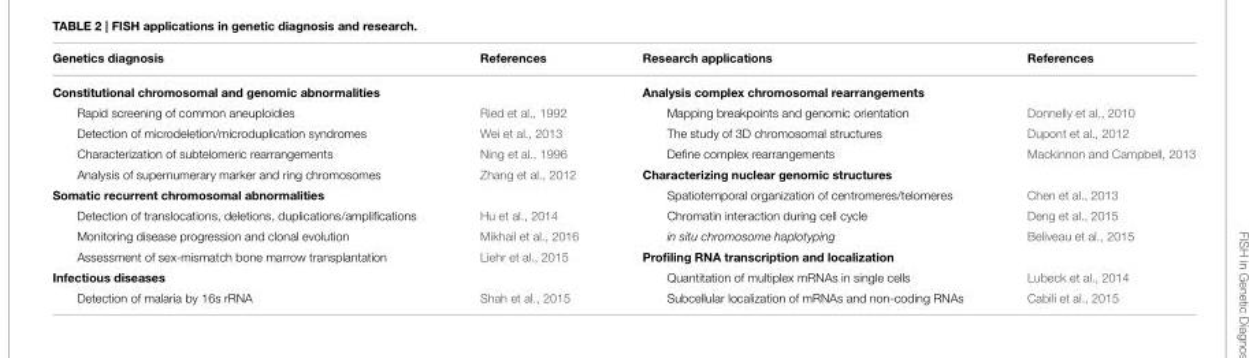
<table><thead><tr><td>Genetics diagnosis</td><td>References</td><td>Research applications</td><td>References</td></tr></thead><tbody><tr><td>Constitutional chromosomal and genomic abnormalities</td><td></td><td>Analysis complex chromosomal rearrangements</td><td></td></tr><tr><td>Rapid screening of common aneuploidies</td><td>Ried et al., 1992</td><td>Mapping breakpoints and genomic orientation</td><td>Donnelly et al., 2010</td></tr><tr><td>Detection of microdeletion/microduplication syndromes</td><td>Wei et al., 2013</td><td>The study of 3D chromosomal structures</td><td>Dupont et al., 2012</td></tr><tr><td>Characterization of subtelomeric rearrangements</td><td>Ning et al., 1996</td><td>Define complex rearrangements</td><td>Mackinnon and Campbell, 2013</td></tr><tr><td>Analysis of supernumerary marker and ring chromosomes</td><td>Zhang et al., 2012</td><td>Characterizing nuclear genomic structures</td><td></td></tr><tr><td>Somatic recurrent chromosomal abnormalities</td><td></td><td>Spatiotemporal organization of centromeres/telomeres</td><td>Chen et al., 2013</td></tr><tr><td>Detection of translocations, deletions, duplications/amplifications</td><td>Hu et al., 2014</td><td>Chromatin interaction during cell cycle</td><td>Deng et al., 2015</td></tr><tr><td>Monitoring disease progression and clonal evolution</td><td>Mikhail et al., 2016</td><td>in situ chromosome haplotyping</td><td>Beliveau et al., 2015</td></tr><tr><td>Assessment of sex-mismatch bone marrow transplantation</td><td>Liehr et al., 2015</td><td>Profiling RNA transcription and localization</td><td></td></tr><tr><td>Infectious diseases</td><td></td><td>Quantitation of multiplex mRNAs in single cells</td><td>Lubeck et al., 2014</td></tr><tr><td>Detection of malaria by 16s rRNA</td><td>Shah et al., 2015</td><td>Subcellular localization of mRNAs and non-coding RNAs</td><td>Cabili et al., 2015</td></tr></tbody></table>